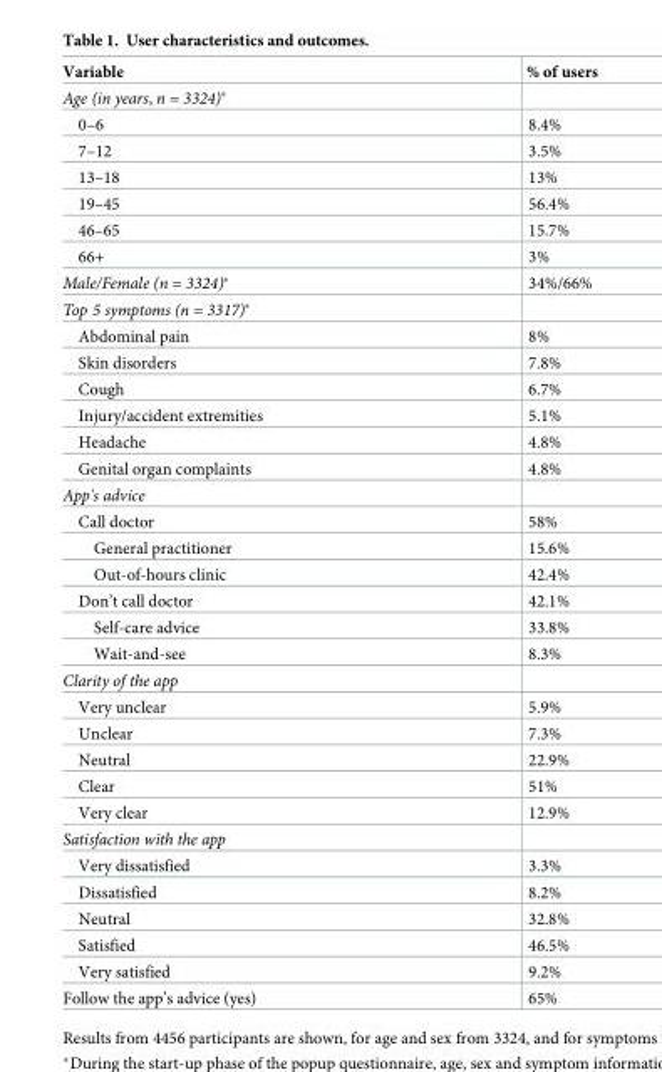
<table><thead><tr><td>Variable</td><td>% of users</td></tr></thead><tbody><tr><td colspan="2">Age (in years, n = 3324)*</td></tr><tr><td>0–6</td><td>8.4%</td></tr><tr><td>7–12</td><td>3.5%</td></tr><tr><td>13–18</td><td>13%</td></tr><tr><td>19–45</td><td>56.4%</td></tr><tr><td>46–65</td><td>15.7%</td></tr><tr><td>66+</td><td>3%</td></tr><tr><td>Male/Female (n = 3324)*</td><td>34%/66%</td></tr><tr><td colspan="2">Top 5 symptoms (n = 3317)*</td></tr><tr><td>Abdominal pain</td><td>8%</td></tr><tr><td>Skin disorders</td><td>7.8%</td></tr><tr><td>Cough</td><td>6.7%</td></tr><tr><td>Injury/accident extremities</td><td>5.1%</td></tr><tr><td>Headache</td><td>4.8%</td></tr><tr><td>Genital organ complaints</td><td>4.8%</td></tr><tr><td colspan="2">App&#x27;s advice</td></tr><tr><td>Call doctor</td><td>58%</td></tr><tr><td>General practitioner</td><td>15.6%</td></tr><tr><td>Out-of-hours clinic</td><td>42.4%</td></tr><tr><td>Don’t call doctor</td><td>42.1%</td></tr><tr><td>Self-care advice</td><td>33.8%</td></tr><tr><td>Wait-and-see</td><td>8.3%</td></tr><tr><td colspan="2">Clarity of the app</td></tr><tr><td>Very unclear</td><td>5.9%</td></tr><tr><td>Unclear</td><td>7.3%</td></tr><tr><td>Neutral</td><td>22.9%</td></tr><tr><td>Clear</td><td>51%</td></tr><tr><td>Very clear</td><td>12.9%</td></tr><tr><td colspan="2">Satisfaction with the app</td></tr><tr><td>Very dissatisfied</td><td>3.3%</td></tr><tr><td>Dissatisfied</td><td>8.2%</td></tr><tr><td>Neutral</td><td>32.8%</td></tr><tr><td>Satisfied</td><td>46.5%</td></tr><tr><td>Very satisfied</td><td>9.2%</td></tr><tr><td>Follow the app’s advice (yes)</td><td>65%</td></tr></tbody></table>